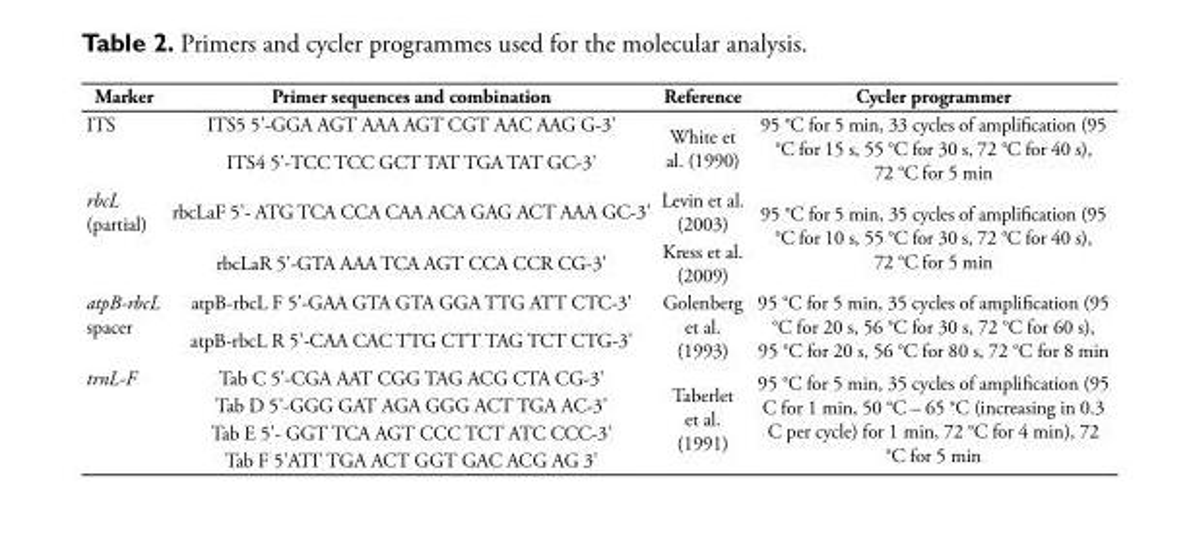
<table><thead><tr><td>Marker</td><td>Primer sequences and combination</td><td>Reference</td><td>Cycler programmer</td></tr></thead><tbody><tr><td rowspan="2">ITS</td><td>ITS5 5&#x27;-GGA AGT AAA AGT CGT AAC AAG G-3&#x27;</td><td rowspan="2">White et al. (1990)</td><td rowspan="2">95 °C for 5 min, 33 cycles of amplification (95 °C for 15 s, 55 °C for 30 s, 72 °C for 40 s), 72 °C for 5 min</td></tr><tr><td>ITS4 5&#x27;-TCC TCC GCT TAT TGA TAT GC-3&#x27;</td></tr><tr><td rowspan="2">rbcL (partial)</td><td>rbcLaF 5&#x27;- ATG TCA CCA CAA ACA GAG ACT AAA GC-3&#x27;</td><td>Levin et al. (2003)</td><td rowspan="2">95 °C for 5 min, 35 cycles of amplification (95 °C for 10 s, 55 °C for 30 s, 72 °C for 40 s), 72 °C for 5 min</td></tr><tr><td>rbcLaR 5&#x27;-GTA AAA TCA AGT CCA CCR CG-3&#x27;</td><td>Kress et al. (2009)</td></tr><tr><td rowspan="2">atpB-rbcL spacer</td><td>atpB-rbcL F 5&#x27;-GAA GTA GTA GGA TTG ATT CTC-3&#x27;</td><td rowspan="2">Golenberg et al. (1993)</td><td rowspan="2">95 °C for 5 min, 35 cycles of amplification (95 °C for 20 s, 56 °C for 30 s, 72 °C for 60 s), 95 °C for 20 s, 56 °C for 80 s, 72 °C for 8 min</td></tr><tr><td>atpB-rbcL R 5&#x27;-CAA CAC TTG CTT TAG TCT CTG-3&#x27;</td></tr><tr><td rowspan="4">trnL-F</td><td>Tab C 5&#x27;-CGA AAT CGG TAG ACG CTA CG-3&#x27;</td><td rowspan="4">Taberlet et al. (1991)</td><td rowspan="4">95 °C for 5 min, 35 cycles of amplification (95 C for 1 min, 50 °C – 65 °C (increasing in 0.3 C per cycle) for 1 min, 72 °C for 4 min), 72 °C for 5 min</td></tr><tr><td>Tab D 5&#x27;-GGG GAT AGA GGG ACT TGA AC-3&#x27;</td></tr><tr><td>Tab E 5&#x27;- GGT TCA AGT CCC TCT ATC CCC-3&#x27;</td></tr><tr><td>Tab F 5&#x27;ATI&#x27; TGA ACT GGT GAC ACG AG 3&#x27;</td></tr></tbody></table>